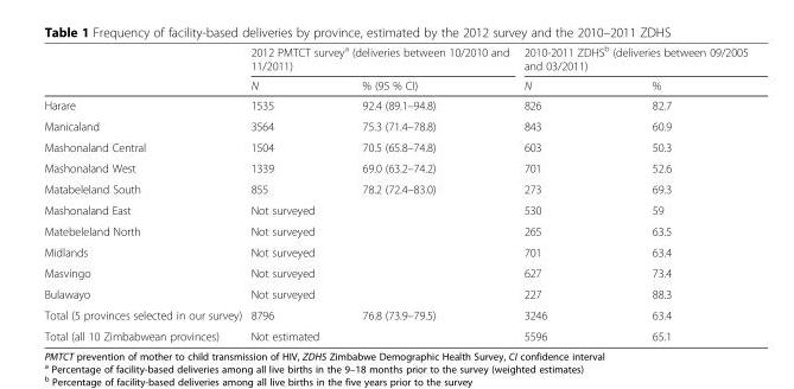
<table><thead><tr><td rowspan="2"></td><td colspan="2">2012 PMTCT survey<sup>a</sup> (deliveries between 10/2010 and 11/2011)</td><td colspan="2">2010-2011 ZDHS<sup>b</sup> (deliveries between 09/2005 and 03/2011)</td></tr><tr><td>N</td><td>% (95 % CI)</td><td>N</td><td>%</td></tr></thead><tbody><tr><td>Harare</td><td>1535</td><td>92.4 (89.1–94.8)</td><td>826</td><td>82.7</td></tr><tr><td>Manicaland</td><td>3564</td><td>75.3 (71.4–78.8)</td><td>843</td><td>60.9</td></tr><tr><td>Mashonaland Central</td><td>1504</td><td>70.5 (65.8–74.8)</td><td>603</td><td>50.3</td></tr><tr><td>Mashonaland West</td><td>1339</td><td>69.0 (63.2–74.2)</td><td>701</td><td>52.6</td></tr><tr><td>Matabeleland South</td><td>855</td><td>78.2 (72.4–83.0)</td><td>273</td><td>69.3</td></tr><tr><td>Mashonaland East</td><td colspan="2">Not surveyed</td><td>530</td><td>59</td></tr><tr><td>Matebeleland North</td><td colspan="2">Not surveyed</td><td>265</td><td>63.5</td></tr><tr><td>Midlands</td><td colspan="2">Not surveyed</td><td>701</td><td>63.4</td></tr><tr><td>Masvingo</td><td colspan="2">Not surveyed</td><td>627</td><td>73.4</td></tr><tr><td>Bulawayo</td><td colspan="2">Not surveyed</td><td>227</td><td>88.3</td></tr><tr><td>Total (5 provinces selected in our survey)</td><td>8796</td><td>76.8 (73.9–79.5)</td><td>3246</td><td>63.4</td></tr><tr><td>Total (all 10 Zimbabwean provinces)</td><td colspan="2">Not estimated</td><td>5596</td><td>65.1</td></tr></tbody></table>